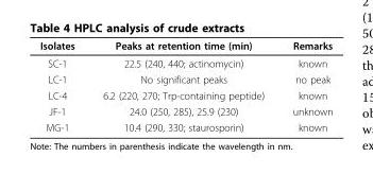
<table><thead><tr><td>Isolates</td><td>Peaks at retention time (min)</td><td>Remarks</td></tr></thead><tbody><tr><td>SC-1</td><td>22.5 (240, 440; actinomycin)</td><td>known</td></tr><tr><td>LC-1</td><td>No significant peaks</td><td>no peak</td></tr><tr><td>LC-4</td><td>6.2 (220, 270; Trp-containing peptide)</td><td>known</td></tr><tr><td>JF-1</td><td>24.0 (250, 285), 25.9 (230)</td><td>unknown</td></tr><tr><td>MG-1</td><td>10.4 (290, 330; staurosporin)</td><td>known</td></tr></tbody></table>